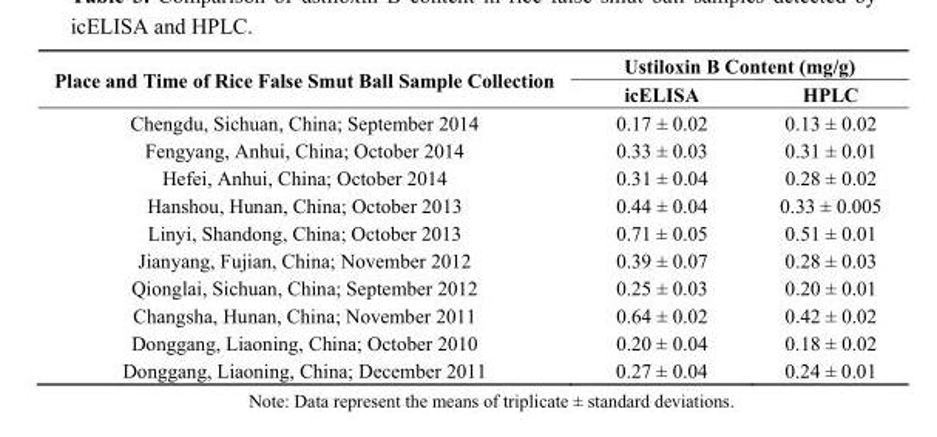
<table><thead><tr><td rowspan="2">Place and Time of Rice False Smut Ball Sample Collection</td><td colspan="2">Ustiloxin B Content (mg/g)</td></tr><tr><td>icELISA</td><td>HPLC</td></tr></thead><tbody><tr><td>Chengdu, Sichuan, China; September 2014</td><td>0.17 ± 0.02</td><td>0.13 ± 0.02</td></tr><tr><td>Fengyang, Anhui, China; October 2014</td><td>0.33 ± 0.03</td><td>0.31 ± 0.01</td></tr><tr><td>Hefei, Anhui, China; October 2014</td><td>0.31 ± 0.04</td><td>0.28 ± 0.02</td></tr><tr><td>Hanshou, Hunan, China; October 2013</td><td>0.44 ± 0.04</td><td>0.33 ± 0.005</td></tr><tr><td>Linyi, Shandong, China; October 2013</td><td>0.71 ± 0.05</td><td>0.51 ± 0.01</td></tr><tr><td>Jianyang, Fujian, China; November 2012</td><td>0.39 ± 0.07</td><td>0.28 ± 0.03</td></tr><tr><td>Qionglai, Sichuan, China; September 2012</td><td>0.25 ± 0.03</td><td>0.20 ± 0.01</td></tr><tr><td>Changsha, Hunan, China; November 2011</td><td>0.64 ± 0.02</td><td>0.42 ± 0.02</td></tr><tr><td>Donggang, Liaoning, China; October 2010</td><td>0.20 ± 0.04</td><td>0.18 ± 0.02</td></tr><tr><td>Donggang, Liaoning, China; December 2011</td><td>0.27 ± 0.04</td><td>0.24 ± 0.01</td></tr></tbody></table>